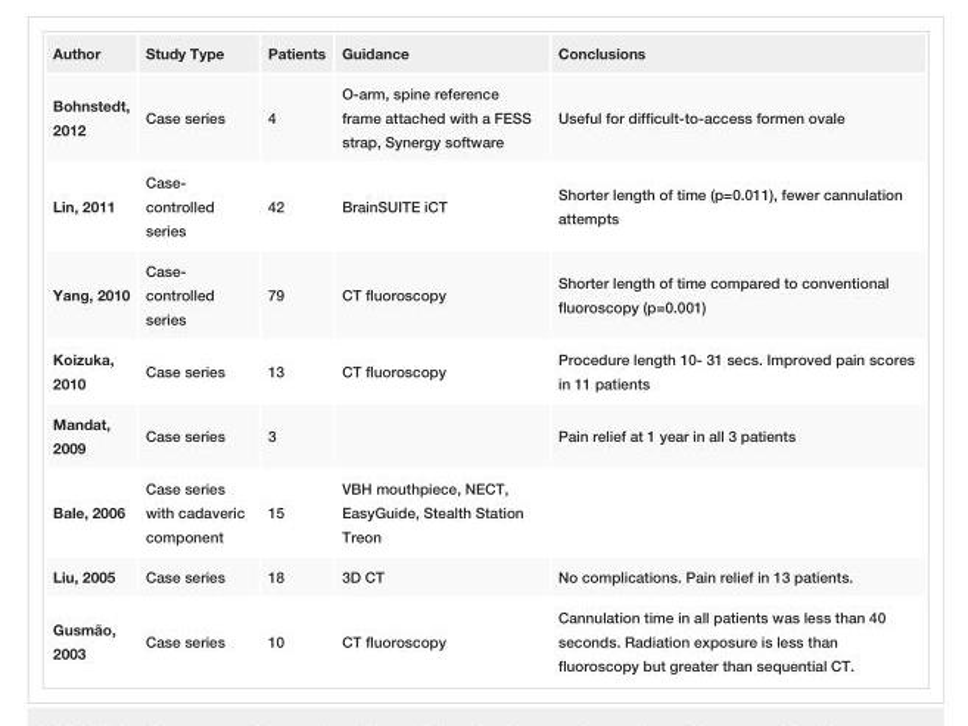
<table><tbody><tr><td>Author</td><td>Study Type</td><td>Patients</td><td>Guidance</td><td>Conclusions</td></tr><tr><td>Bohnstedt, 2012</td><td>Case series</td><td>4</td><td>O-arm, spine reference frame attached with a FESS strap, Synergy software</td><td>Useful for difficult-to-access formen ovale</td></tr><tr><td>Lin, 2011</td><td>Case- controlled series</td><td>42</td><td>BrainSUITE iCT</td><td>Shorter length of time (p=0.011), fewer cannulation attempts</td></tr><tr><td>Yang, 2010</td><td>Case- controlled series</td><td>79</td><td>CT fluoroscopy</td><td>Shorter length of time compared to conventional fluoroscopy (p=0.001)</td></tr><tr><td>Koizuka, 2010</td><td>Case series</td><td>13</td><td>CT fluoroscopy</td><td>Procedure length 10- 31 secs. Improved pain scores in 11 patients</td></tr><tr><td>Mandat, 2009</td><td>Case series</td><td>3</td><td></td><td>Pain relief at 1 year in all 3 patients</td></tr><tr><td>Bale, 2006</td><td>Case series with cadaveric component</td><td>15</td><td>VBH mouthpiece, NECT, EasyGuide, Stealth Station Treon</td><td></td></tr><tr><td>Liu, 2005</td><td>Case series</td><td>18</td><td>3D CT</td><td>No complications. Pain relief in 13 patients.</td></tr><tr><td>Gusmão, 2003</td><td>Case series</td><td>10</td><td>CT fluoroscopy</td><td>Cannulation time in all patients was less than 40 seconds. Radiation exposure is less than fluoroscopy but greater than sequential CT.</td></tr></tbody></table>